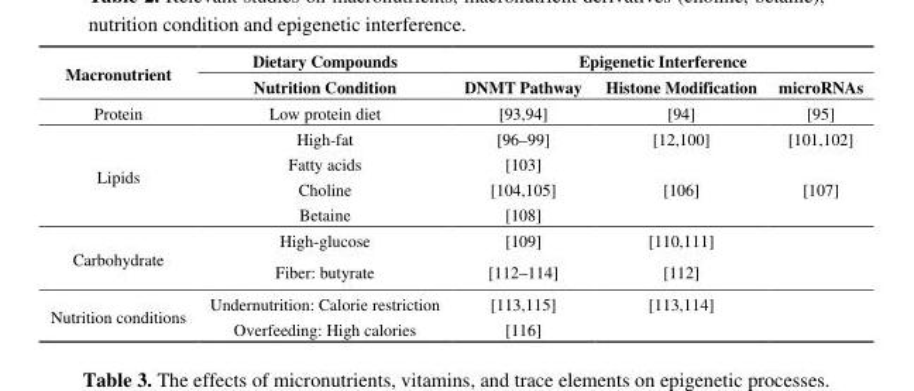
<table><thead><tr><td rowspan="2">Macronutrient</td><td rowspan="2">Dietary Compounds Nutrition Condition</td><td colspan="3">Epigenetic Interference</td></tr><tr><td>DNMT Pathway</td><td>Histone Modification</td><td>microRNAs</td></tr></thead><tbody><tr><td>Protein</td><td>Low protein diet</td><td>[93,94]</td><td>[94]</td><td>[95]</td></tr><tr><td rowspan="4">Lipids</td><td>High-fat</td><td>[96–99]</td><td>[12,100]</td><td>[101,102]</td></tr><tr><td>Fatty acids</td><td>[103]</td><td></td><td></td></tr><tr><td>Choline</td><td>[104,105]</td><td>[106]</td><td>[107]</td></tr><tr><td>Betaine</td><td>[108]</td><td></td><td></td></tr><tr><td rowspan="2">Carbohydrate</td><td>High-glucose</td><td>[109]</td><td>[110,111]</td><td></td></tr><tr><td>Fiber: butyrate</td><td>[112–114]</td><td>[112]</td><td></td></tr><tr><td rowspan="2">Nutrition conditions</td><td>Undernutrition: Calorie restriction</td><td>[113,115]</td><td>[113,114]</td><td></td></tr><tr><td>Overfeeding: High calories</td><td>[116]</td><td></td><td></td></tr></tbody></table>